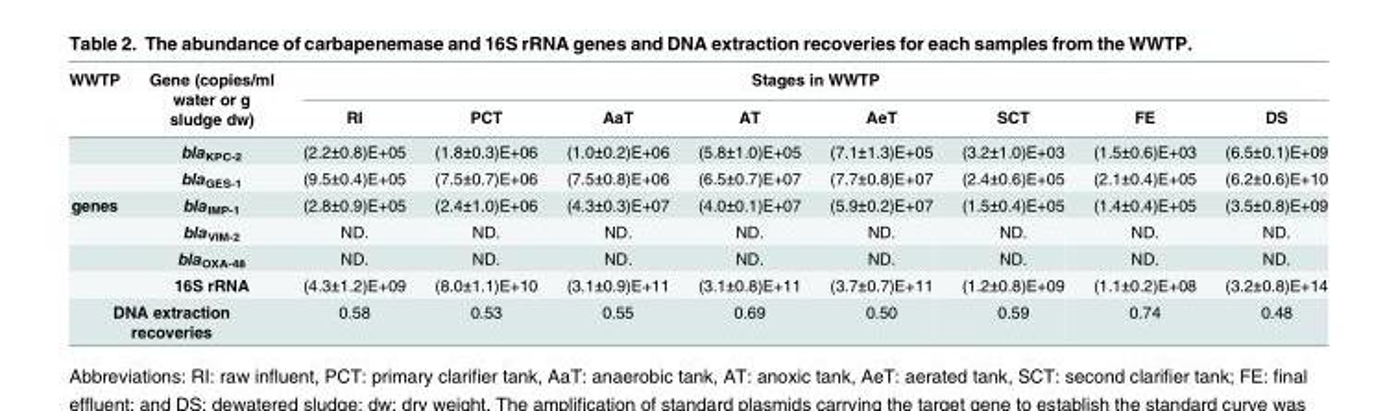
<table><thead><tr><td rowspan="2">WWTP</td><td rowspan="2">Gene (copies/ml water or g sludge dw)</td><td colspan="8">Stages in WWTP</td></tr><tr><td>RI</td><td>PCT</td><td>AaT</td><td>AT</td><td>AeT</td><td>SCT</td><td>FE</td><td>DS</td></tr></thead><tbody><tr><td></td><td>bla<sub>KPC-2</sub></td><td>(2.2±0.8)E+05</td><td>(1.8±0.3)E+06</td><td>(1.0±0.2)E+06</td><td>(5.8±1.0)E+05</td><td>(7.1±1.3)E+05</td><td>(3.2±1.0)E+03</td><td>(1.5±0.6)E+03</td><td>(6.5±0.1)E+09</td></tr><tr><td></td><td>bla<sub>GES-1</sub></td><td>(9.5±0.4)E+05</td><td>(7.5±0.7)E+06</td><td>(7.5±0.8)E+06</td><td>(6.5±0.7)E+07</td><td>(7.7±0.8)E+07</td><td>(2.4±0.6)E+05</td><td>(2.1±0.4)E+05</td><td>(6.2±0.6)E+10</td></tr><tr><td rowspan="4">genes</td><td>bla<sub>IMP-1</sub></td><td>(2.8±0.9)E+05</td><td>(2.4±1.0)E+06</td><td>(4.3±0.3)E+07</td><td>(4.0±0.1)E+07</td><td>(5.9±0.2)E+07</td><td>(1.5±0.4)E+05</td><td>(1.4±0.4)E+05</td><td>(3.5±0.8)E+09</td></tr><tr><td>bla<sub>VIM-2</sub></td><td>ND.</td><td>ND.</td><td>ND.</td><td>ND.</td><td>ND.</td><td>ND.</td><td>ND.</td><td>ND.</td></tr><tr><td>bla<sub>OXA-48</sub></td><td>ND.</td><td>ND.</td><td>ND.</td><td>ND.</td><td>ND.</td><td>ND.</td><td>ND.</td><td>ND.</td></tr><tr><td>16S rRNA</td><td>(4.3±1.2)E+09</td><td>(8.0±1.1)E+10</td><td>(3.1±0.9)E+11</td><td>(3.1±0.8)E+11</td><td>(3.7±0.7)E+11</td><td>(1.2±0.8)E+09</td><td>(1.1±0.2)E+08</td><td>(3.2±0.8)E+14</td></tr><tr><td colspan="2">DNA extraction recoveries</td><td>0.58</td><td>0.53</td><td>0.55</td><td>0.69</td><td>0.50</td><td>0.59</td><td>0.74</td><td>0.48</td></tr></tbody></table>